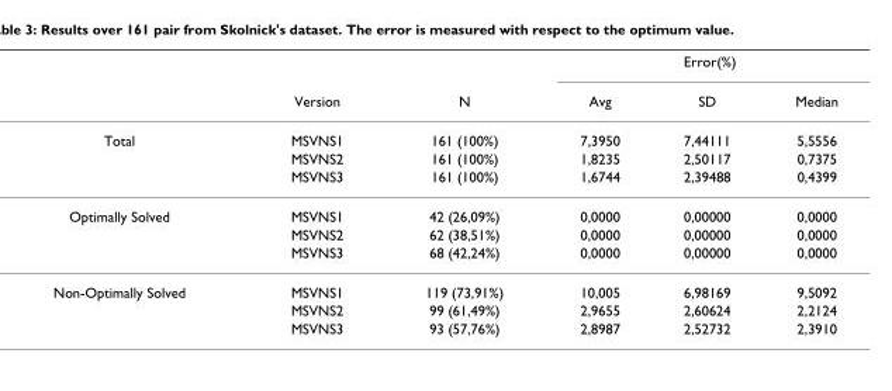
<table><thead><tr><td rowspan="2"></td><td rowspan="2">Version</td><td rowspan="2">N</td><td colspan="3">Error(%)</td></tr><tr><td>Avg</td><td>SD</td><td>Median</td></tr></thead><tbody><tr><td rowspan="3">Total</td><td>MSVNS1</td><td>161 (100%)</td><td>7,3950</td><td>7,44111</td><td>5,5556</td></tr><tr><td>MSVNS2</td><td>161 (100%)</td><td>1,8235</td><td>2,50117</td><td>0,7375</td></tr><tr><td>MSVNS3</td><td>161 (100%)</td><td>1,6744</td><td>2,39488</td><td>0,4399</td></tr><tr><td rowspan="3">Optimally Solved</td><td>MSVNS1</td><td>42 (26,09%)</td><td>0,0000</td><td>0,00000</td><td>0,0000</td></tr><tr><td>MSVNS2</td><td>62 (38,51%)</td><td>0,0000</td><td>0,00000</td><td>0,0000</td></tr><tr><td>MSVNS3</td><td>68 (42,24%)</td><td>0,0000</td><td>0,00000</td><td>0,0000</td></tr><tr><td rowspan="3">Non-Optimally Solved</td><td>MSVNS1</td><td>119 (73,91%)</td><td>10,005</td><td>6,98169</td><td>9,5092</td></tr><tr><td>MSVNS2</td><td>99 (61,49%)</td><td>2,9655</td><td>2,60624</td><td>2,2124</td></tr><tr><td>MSVNS3</td><td>93 (57,76%)</td><td>2,8987</td><td>2,52732</td><td>2,3910</td></tr></tbody></table>